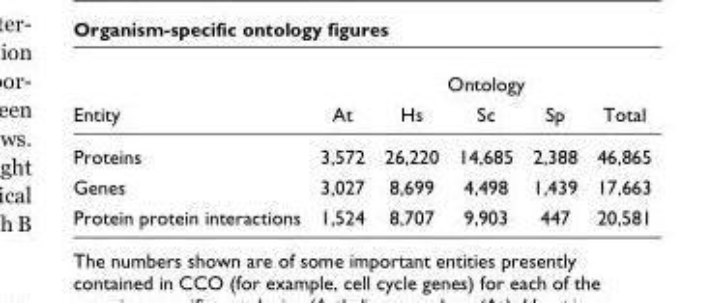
<table><thead><tr><td rowspan="2">Entity</td><td colspan="5">Ontology</td></tr><tr><td>At</td><td>Hs</td><td>Sc</td><td>Sp</td><td>Total</td></tr></thead><tbody><tr><td>Proteins</td><td>3,572</td><td>26,220</td><td>14,685</td><td>2,388</td><td>46,865</td></tr><tr><td>Genes</td><td>3,027</td><td>8,699</td><td>4,498</td><td>1,439</td><td>17,663</td></tr><tr><td>Protein protein interactions</td><td>1,524</td><td>8,707</td><td>9,903</td><td>447</td><td>20,581</td></tr></tbody></table>